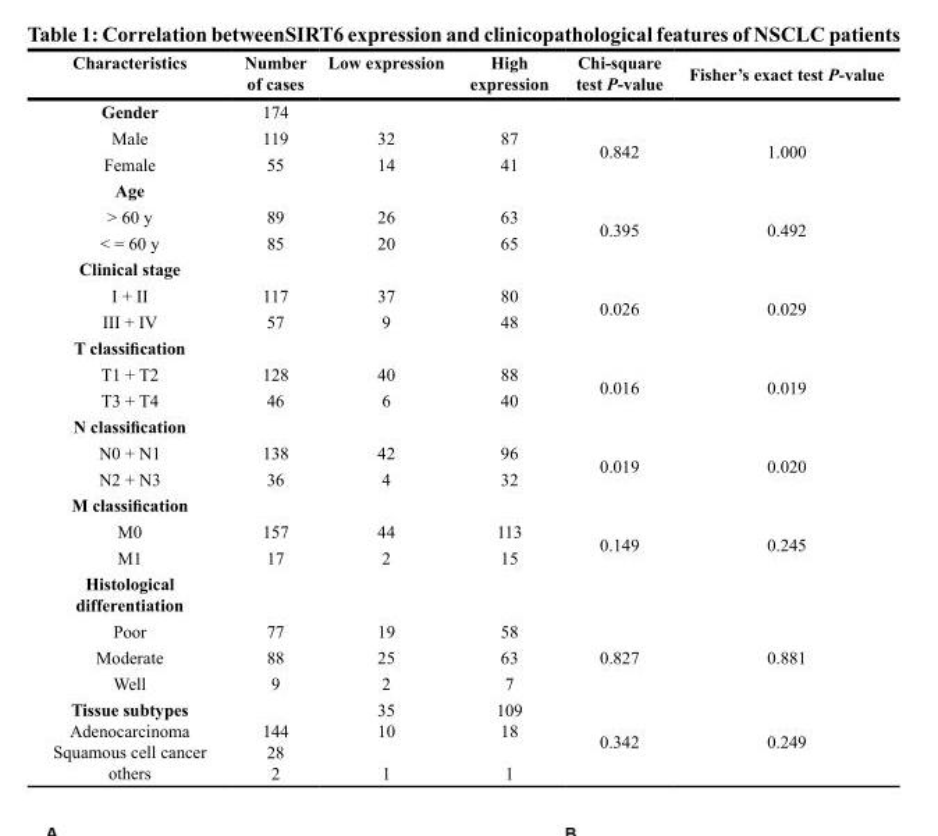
<table><thead><tr><td>Characteristics</td><td>Number of cases</td><td>Low expression</td><td>High expression</td><td>Chi-square test P-value</td><td>Fisher’s exact test P-value</td></tr></thead><tbody><tr><td>Gender</td><td>174</td><td></td><td></td><td></td><td></td></tr><tr><td>Male</td><td>119</td><td>32</td><td>87</td><td rowspan="2">0.842</td><td rowspan="2">1.000</td></tr><tr><td>Female</td><td>55</td><td>14</td><td>41</td></tr><tr><td colspan="6">Age</td></tr><tr><td>&gt; 60 y</td><td>89</td><td>26</td><td>63</td><td rowspan="2">0.395</td><td rowspan="2">0.492</td></tr><tr><td>&lt; = 60 y</td><td>85</td><td>20</td><td>65</td></tr><tr><td colspan="6">Clinical stage</td></tr><tr><td>I + II</td><td>117</td><td>37</td><td>80</td><td rowspan="2">0.026</td><td rowspan="2">0.029</td></tr><tr><td>III + IV</td><td>57</td><td>9</td><td>48</td></tr><tr><td colspan="6">T classification</td></tr><tr><td>T1 + T2</td><td>128</td><td>40</td><td>88</td><td rowspan="2">0.016</td><td rowspan="2">0.019</td></tr><tr><td>T3 + T4</td><td>46</td><td>6</td><td>40</td></tr><tr><td colspan="6">N classification</td></tr><tr><td>N0 + N1</td><td>138</td><td>42</td><td>96</td><td rowspan="2">0.019</td><td rowspan="2">0.020</td></tr><tr><td>N2 + N3</td><td>36</td><td>4</td><td>32</td></tr><tr><td colspan="6">M classification</td></tr><tr><td>M0</td><td>157</td><td>44</td><td>113</td><td rowspan="2">0.149</td><td rowspan="2">0.245</td></tr><tr><td>M1</td><td>17</td><td>2</td><td>15</td></tr><tr><td colspan="6">Histological differentiation</td></tr><tr><td>Poor</td><td>77</td><td>19</td><td>58</td><td rowspan="3">0.827</td><td rowspan="3">0.881</td></tr><tr><td>Moderate</td><td>88</td><td>25</td><td>63</td></tr><tr><td>Well</td><td>9</td><td>2</td><td>7</td></tr><tr><td>Tissue subtypes</td><td></td><td>35</td><td>109</td><td></td><td></td></tr><tr><td>Adenocarcinoma</td><td>144</td><td>10</td><td>18</td><td rowspan="3">0.342</td><td rowspan="3">0.249</td></tr><tr><td>Squamous cell cancer</td><td>28</td><td></td><td></td></tr><tr><td>others</td><td>2</td><td>1</td><td>1</td></tr></tbody></table>